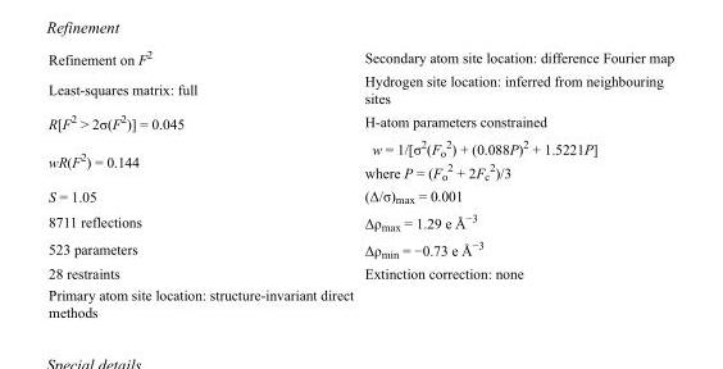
<table><tbody><tr><td>Refinement on F<sup>2</sup></td><td>Secondary atom site location: difference Fourier map</td></tr><tr><td>Least-squares matrix: full</td><td>Hydrogen site location: inferred from neighbouring sites</td></tr><tr><td>R[F<sup>2</sup> &gt; 2σ(F<sup>2</sup>)] = 0.045</td><td>H-atom parameters constrained</td></tr><tr><td>wR(F<sup>2</sup>) = 0.144</td><td>w = 1/[σ<sup>2</sup>(F<sub>o</sub> <sup>2</sup>) + (0.088P)<sup>2</sup> + 1.5221P] where P = (F<sub>o</sub> <sup>2</sup> + 2F<sub>c</sub> <sup>2</sup>)/3</td></tr><tr><td>S = 1.05</td><td>(Δ/σ)<sub>max</sub> = 0.001</td></tr><tr><td>8711 reflections</td><td>Δρ<sub>max</sub> = 1.29 e Å<sup>−3</sup></td></tr><tr><td>523 parameters</td><td>Δρ<sub>min</sub> = −0.73 e Å<sup>−3</sup></td></tr><tr><td>28 restraints</td><td>Extinction correction: none</td></tr><tr><td>Primary atom site location: structure-invariant direct methods</td><td></td></tr></tbody></table>